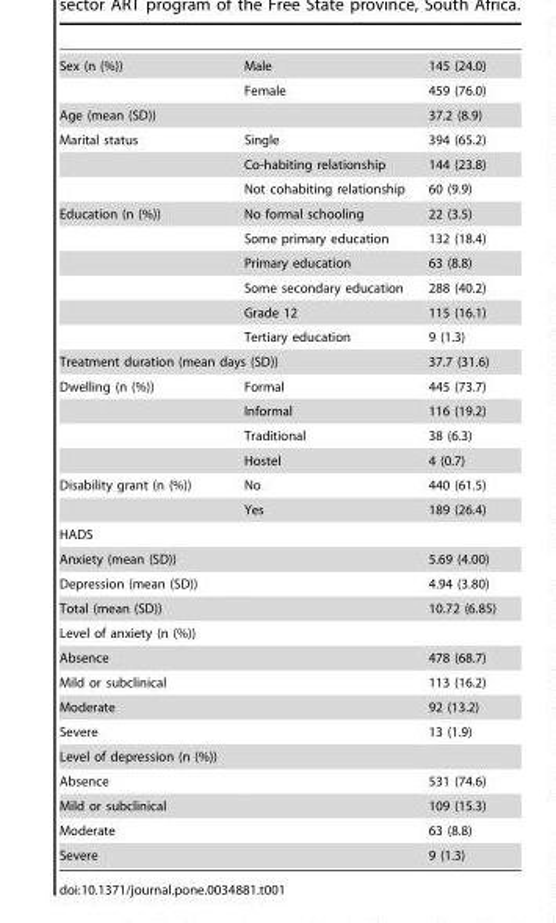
<table><tbody><tr><td rowspan="2">Sex (n (%))</td><td>Male</td><td>145 (24.0)</td></tr><tr><td>Female</td><td>459 (76.0)</td></tr><tr><td colspan="2">Age (mean (SD))</td><td>37.2 (8.9)</td></tr><tr><td rowspan="3">Marital status</td><td>Single</td><td>394 (65.2)</td></tr><tr><td>Co-habiting relationship</td><td>144 (23.8)</td></tr><tr><td>Not cohabiting relationship</td><td>60 (9.9)</td></tr><tr><td rowspan="6">Education (n (%))</td><td>No formal schooling</td><td>22 (3.5)</td></tr><tr><td>Some primary education</td><td>132 (18.4)</td></tr><tr><td>Primary education</td><td>63 (8.8)</td></tr><tr><td>Some secondary education</td><td>288 (40.2)</td></tr><tr><td>Grade 12</td><td>115 (16.1)</td></tr><tr><td>Tertiary education</td><td>9 (1.3)</td></tr><tr><td colspan="2">Treatment duration (mean days (SD))</td><td>37.7 (31.6)</td></tr><tr><td rowspan="4">Dwelling (n (%))</td><td>Formal</td><td>445 (73.7)</td></tr><tr><td>Informal</td><td>116 (19.2)</td></tr><tr><td>Traditional</td><td>38 (6.3)</td></tr><tr><td>Hostel</td><td>4 (0.7)</td></tr><tr><td rowspan="2">Disability grant (n (%))</td><td>No</td><td>440 (61.5)</td></tr><tr><td>Yes</td><td>189 (26.4)</td></tr><tr><td colspan="3">HADS</td></tr><tr><td>Anxiety (mean (SD))</td><td></td><td>5.69 (4.00)</td></tr><tr><td>Depression (mean (SD))</td><td></td><td>4.94 (3.80)</td></tr><tr><td>Total (mean (SD))</td><td></td><td>10.72 (6.85)</td></tr><tr><td colspan="3">Level of anxiety (n (%))</td></tr><tr><td>Absence</td><td></td><td>478 (68.7)</td></tr><tr><td>Mild or subclinical</td><td></td><td>113 (16.2)</td></tr><tr><td>Moderate</td><td></td><td>92 (13.2)</td></tr><tr><td>Severe</td><td></td><td>13 (1.9)</td></tr><tr><td colspan="3">Level of depression (n (%))</td></tr><tr><td>Absence</td><td></td><td>531 (74.6)</td></tr><tr><td>Mild or subclinical</td><td></td><td>109 (15.3)</td></tr><tr><td>Moderate</td><td></td><td>63 (8.8)</td></tr><tr><td>Severe</td><td></td><td>9 (1.3)</td></tr></tbody></table>